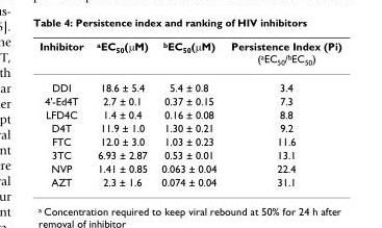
<table><thead><tr><td>Inhibitor</td><td><sup>a</sup>EC<sub>50</sub>(μM)</td><td><sup>b</sup>EC<sub>50</sub>(μM)</td><td>Persistence Index (Pi) (<sup>a</sup>EC<sub>50</sub>/<sup>b</sup>EC<sub>50</sub>)</td></tr></thead><tbody><tr><td>DDI</td><td>18.6 ± 5.4</td><td>5.4 ± 0.8</td><td>3.4</td></tr><tr><td>4&#x27;-Ed4T</td><td>2.7 ± 0.1</td><td>0.37 ± 0.15</td><td>7.3</td></tr><tr><td>LFD4C</td><td>1.4 ± 0.4</td><td>0.16 ± 0.08</td><td>8.8</td></tr><tr><td>D4T</td><td>11.9 ± 1.0</td><td>1.30 ± 0.21</td><td>9.2</td></tr><tr><td>FTC</td><td>12.0 ± 3.0</td><td>1.03 ± 0.23</td><td>11.6</td></tr><tr><td>3TC</td><td>6.93 ± 2.87</td><td>0.53 ± 0.01</td><td>13.1</td></tr><tr><td>NVP</td><td>1.41 ± 0.85</td><td>0.063 ± 0.04</td><td>22.4</td></tr><tr><td>AZT</td><td>2.3 ± 1.6</td><td>0.074 ± 0.04</td><td>31.1</td></tr></tbody></table>